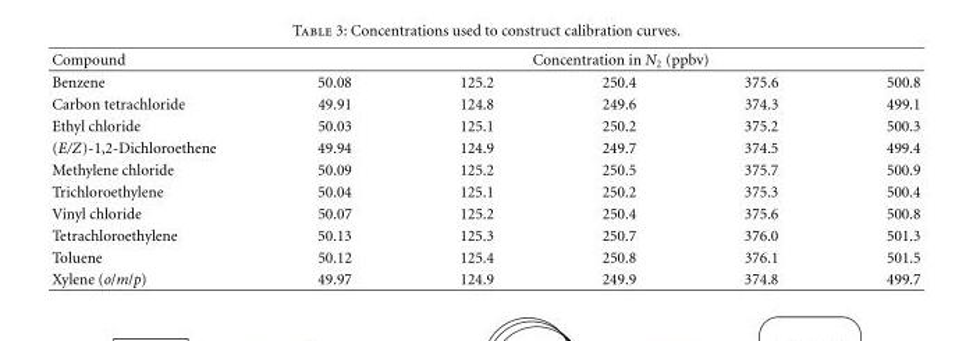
<table><thead><tr><td rowspan="2">Compound Benzene</td><td colspan="5">Concentration in N<sub>2</sub> (ppbv)</td></tr><tr><td>50.08</td><td>125.2</td><td>250.4</td><td>375.6</td><td>500.8</td></tr></thead><tbody><tr><td>Carbon tetrachloride</td><td>49.91</td><td>124.8</td><td>249.6</td><td>374.3</td><td>499.1</td></tr><tr><td>Ethyl chloride</td><td>50.03</td><td>125.1</td><td>250.2</td><td>375.2</td><td>500.3</td></tr><tr><td>(E/Z)-1,2-Dichloroethene</td><td>49.94</td><td>124.9</td><td>249.7</td><td>374.5</td><td>499.4</td></tr><tr><td>Methylene chloride</td><td>50.09</td><td>125.2</td><td>250.5</td><td>375.7</td><td>500.9</td></tr><tr><td>Trichloroethylene</td><td>50.04</td><td>125.1</td><td>250.2</td><td>375.3</td><td>500.4</td></tr><tr><td>Vinyl chloride</td><td>50.07</td><td>125.2</td><td>250.4</td><td>375.6</td><td>500.8</td></tr><tr><td>Tetrachloroethylene</td><td>50.13</td><td>125.3</td><td>250.7</td><td>376.0</td><td>501.3</td></tr><tr><td>Toluene</td><td>50.12</td><td>125.4</td><td>250.8</td><td>376.1</td><td>501.5</td></tr><tr><td>Xylene (o/m/p)</td><td>49.97</td><td>124.9</td><td>249.9</td><td>374.8</td><td>499.7</td></tr></tbody></table>